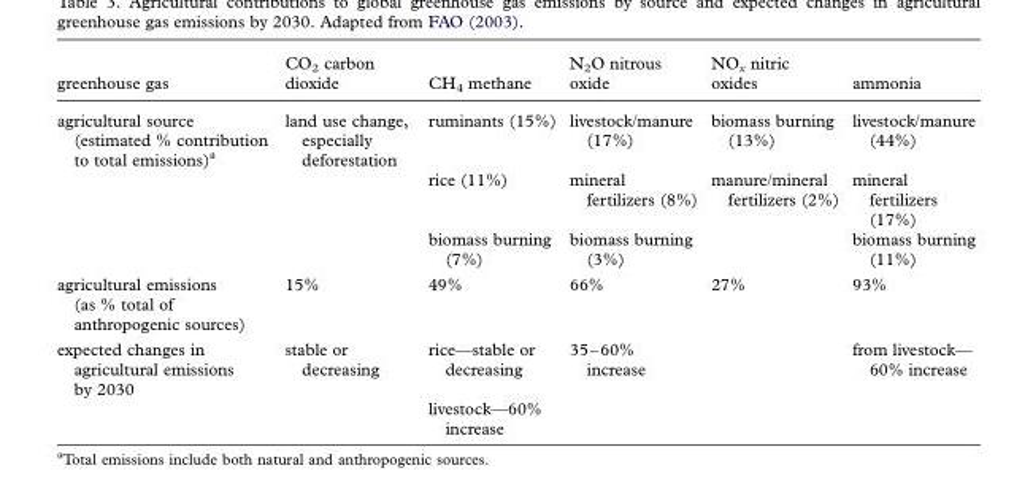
<table><thead><tr><td>greenhouse gas</td><td>CO<sub>2</sub> carbon dioxide</td><td>CH<sub>4</sub> methane</td><td>N<sub>2</sub>O nitrous oxide</td><td>NO<sub>x</sub> nitric oxides</td><td>ammonia</td></tr></thead><tbody><tr><td rowspan="3">agricultural source (estimated % contribution to total emissions)<sup>a</sup></td><td>land use change, especially deforestation</td><td>ruminants (15%)</td><td>livestock/manure (17%)</td><td>biomass burning (13%)</td><td>livestock/manure (44%)</td></tr><tr><td></td><td>rice (11%)</td><td>mineral fertilizers (8%)</td><td>manure/mineral fertilizers (2%)</td><td>mineral fertilizers (17%)</td></tr><tr><td></td><td>biomass burning (7%)</td><td>biomass burning (3%)</td><td></td><td>biomass burning (11%)</td></tr><tr><td>agricultural emissions (as % total of anthropogenic sources)</td><td>15%</td><td>49%</td><td>66%</td><td>27%</td><td>93%</td></tr><tr><td rowspan="2">expected changes in agricultural emissions by 2030</td><td>stable or decreasing</td><td>rice—stable or decreasing</td><td>35–60% increase</td><td></td><td>from livestock— 60% increase</td></tr><tr><td></td><td>livestock—60% increase</td><td></td><td></td><td></td></tr></tbody></table>